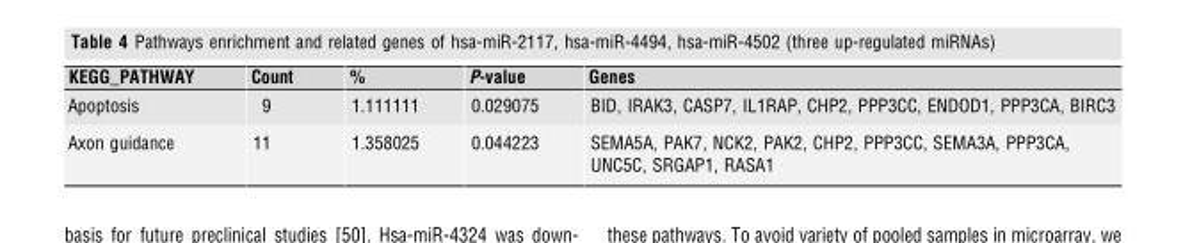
<table><thead><tr><td>KEGG_PATHWAY</td><td>Count</td><td>%</td><td>P-value</td><td>Genes</td></tr></thead><tbody><tr><td>Apoptosis</td><td>9</td><td>1.111111</td><td>0.029075</td><td>BID, IRAK3, CASP7, IL1RAP, CHP2, PPP3CC, ENDOD1, PPP3CA, BIRC3</td></tr><tr><td>Axon guidance</td><td>11</td><td>1.358025</td><td>0.044223</td><td>SEMA5A, PAK7, NCK2, PAK2, CHP2, PPP3CC, SEMA3A, PPP3CA, UNC5C, SRGAP1, RASA1</td></tr></tbody></table>